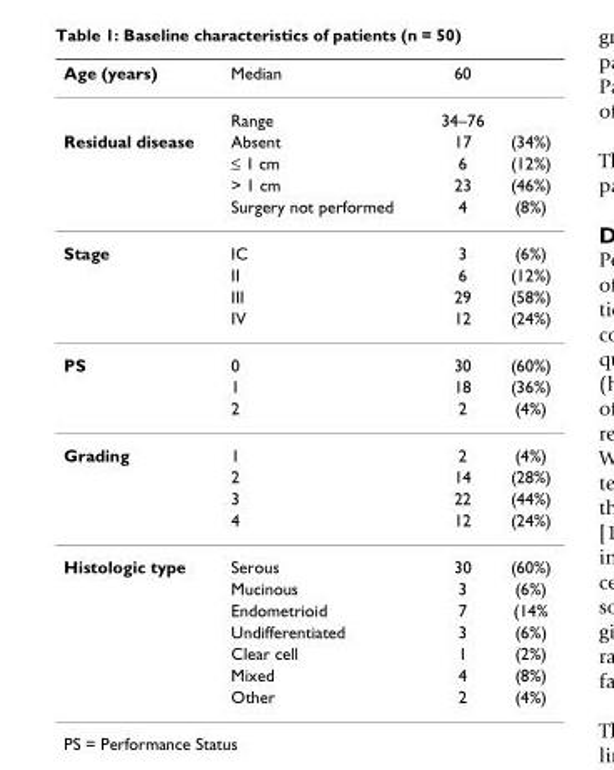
<table><thead><tr><td>Age (years)</td><td>Median</td><td>60</td><td></td></tr></thead><tbody><tr><td></td><td>Range</td><td>34–76</td><td></td></tr><tr><td rowspan="4">Residual disease</td><td>Absent</td><td>17</td><td>(34%)</td></tr><tr><td>≤ 1 cm</td><td>6</td><td>(12%)</td></tr><tr><td>&gt; 1 cm</td><td>23</td><td>(46%)</td></tr><tr><td>Surgery not performed</td><td>4</td><td>(8%)</td></tr><tr><td rowspan="4">Stage</td><td>IC</td><td>3</td><td>(6%)</td></tr><tr><td>II</td><td>6</td><td>(12%)</td></tr><tr><td>III</td><td>29</td><td>(58%)</td></tr><tr><td>IV</td><td>12</td><td>(24%)</td></tr><tr><td rowspan="3">PS</td><td>0</td><td>30</td><td>(60%)</td></tr><tr><td>1</td><td>18</td><td>(36%)</td></tr><tr><td>2</td><td>2</td><td>(4%)</td></tr><tr><td rowspan="4">Grading</td><td>1</td><td>2</td><td>(4%)</td></tr><tr><td>2</td><td>14</td><td>(28%)</td></tr><tr><td>3</td><td>22</td><td>(44%)</td></tr><tr><td>4</td><td>12</td><td>(24%)</td></tr><tr><td rowspan="7">Histologic type</td><td>Serous</td><td>30</td><td>(60%)</td></tr><tr><td>Mucinous</td><td>3</td><td>(6%)</td></tr><tr><td>Endometrioid</td><td>7</td><td>(14%</td></tr><tr><td>Undifferentiated</td><td>3</td><td>(6%)</td></tr><tr><td>Clear cell</td><td>1</td><td>(2%)</td></tr><tr><td>Mixed</td><td>4</td><td>(8%)</td></tr><tr><td>Other</td><td>2</td><td>(4%)</td></tr></tbody></table>